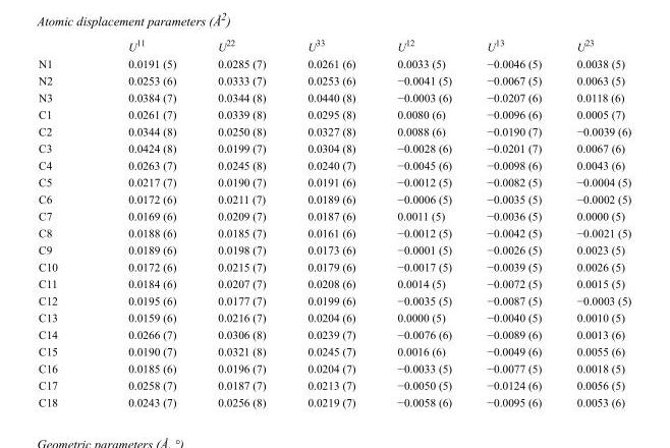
<table><thead><tr><td></td><td>U<sup>11</sup></td><td>U<sup>22</sup></td><td>U<sup>33</sup></td><td>U<sup>12</sup></td><td>U<sup>13</sup></td><td>U<sup>23</sup></td></tr></thead><tbody><tr><td>N1</td><td>0.0191 (5)</td><td>0.0285 (7)</td><td>0.0261 (6)</td><td>0.0033 (5)</td><td>−0.0046 (5)</td><td>0.0038 (5)</td></tr><tr><td>N2</td><td>0.0253 (6)</td><td>0.0333 (7)</td><td>0.0253 (6)</td><td>−0.0041 (5)</td><td>−0.0067 (5)</td><td>0.0063 (5)</td></tr><tr><td>N3</td><td>0.0384 (7)</td><td>0.0344 (8)</td><td>0.0440 (8)</td><td>−0.0003 (6)</td><td>−0.0207 (6)</td><td>0.0118 (6)</td></tr><tr><td>C1</td><td>0.0261 (7)</td><td>0.0339 (8)</td><td>0.0295 (8)</td><td>0.0080 (6)</td><td>−0.0096 (6)</td><td>0.0005 (7)</td></tr><tr><td>C2</td><td>0.0344 (8)</td><td>0.0250 (8)</td><td>0.0327 (8)</td><td>0.0088 (6)</td><td>−0.0190 (7)</td><td>−0.0039 (6)</td></tr><tr><td>C3</td><td>0.0424 (8)</td><td>0.0199 (7)</td><td>0.0304 (8)</td><td>−0.0028 (6)</td><td>−0.0201 (7)</td><td>0.0067 (6)</td></tr><tr><td>C4</td><td>0.0263 (7)</td><td>0.0245 (8)</td><td>0.0240 (7)</td><td>−0.0045 (6)</td><td>−0.0098 (6)</td><td>0.0043 (6)</td></tr><tr><td>C5</td><td>0.0217 (7)</td><td>0.0190 (7)</td><td>0.0191 (6)</td><td>−0.0012 (5)</td><td>−0.0082 (5)</td><td>−0.0004 (5)</td></tr><tr><td>C6</td><td>0.0172 (6)</td><td>0.0211 (7)</td><td>0.0189 (6)</td><td>−0.0006 (5)</td><td>−0.0035 (5)</td><td>−0.0002 (5)</td></tr><tr><td>C7</td><td>0.0169 (6)</td><td>0.0209 (7)</td><td>0.0187 (6)</td><td>0.0011 (5)</td><td>−0.0036 (5)</td><td>0.0000 (5)</td></tr><tr><td>C8</td><td>0.0188 (6)</td><td>0.0185 (7)</td><td>0.0161 (6)</td><td>−0.0012 (5)</td><td>−0.0042 (5)</td><td>−0.0021 (5)</td></tr><tr><td>C9</td><td>0.0189 (6)</td><td>0.0198 (7)</td><td>0.0173 (6)</td><td>−0.0001 (5)</td><td>−0.0026 (5)</td><td>0.0023 (5)</td></tr><tr><td>C10</td><td>0.0172 (6)</td><td>0.0215 (7)</td><td>0.0179 (6)</td><td>−0.0017 (5)</td><td>−0.0039 (5)</td><td>0.0026 (5)</td></tr><tr><td>C11</td><td>0.0184 (6)</td><td>0.0207 (7)</td><td>0.0208 (6)</td><td>0.0014 (5)</td><td>−0.0072 (5)</td><td>0.0015 (5)</td></tr><tr><td>C12</td><td>0.0195 (6)</td><td>0.0177 (7)</td><td>0.0199 (6)</td><td>−0.0035 (5)</td><td>−0.0087 (5)</td><td>−0.0003 (5)</td></tr><tr><td>C13</td><td>0.0159 (6)</td><td>0.0216 (7)</td><td>0.0204 (6)</td><td>0.0000 (5)</td><td>−0.0040 (5)</td><td>0.0010 (5)</td></tr><tr><td>C14</td><td>0.0266 (7)</td><td>0.0306 (8)</td><td>0.0239 (7)</td><td>−0.0076 (6)</td><td>−0.0089 (6)</td><td>0.0013 (6)</td></tr><tr><td>C15</td><td>0.0190 (7)</td><td>0.0321 (8)</td><td>0.0245 (7)</td><td>0.0016 (6)</td><td>−0.0049 (6)</td><td>0.0055 (6)</td></tr><tr><td>C16</td><td>0.0185 (6)</td><td>0.0196 (7)</td><td>0.0204 (7)</td><td>−0.0033 (5)</td><td>−0.0077 (5)</td><td>0.0018 (5)</td></tr><tr><td>C17</td><td>0.0258 (7)</td><td>0.0187 (7)</td><td>0.0213 (7)</td><td>−0.0050 (5)</td><td>−0.0124 (6)</td><td>0.0056 (5)</td></tr><tr><td>C18</td><td>0.0243 (7)</td><td>0.0256 (8)</td><td>0.0219 (7)</td><td>−0.0058 (6)</td><td>−0.0095 (6)</td><td>0.0053 (6)</td></tr></tbody></table>